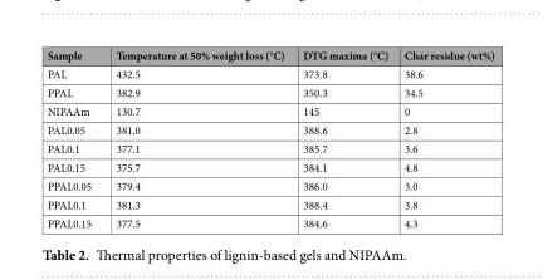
<table><thead><tr><td>Sample</td><td>Temperature at 50% weight loss (°C)</td><td>DTG maxima (°C)</td><td>Char residue (wt%)</td></tr></thead><tbody><tr><td>PAL</td><td>432.5</td><td>373.8</td><td>38.6</td></tr><tr><td>PPAL</td><td>382.9</td><td>350.3</td><td>34.5</td></tr><tr><td>NIPAAm</td><td>130.7</td><td>145</td><td>0</td></tr><tr><td>PAL0.05</td><td>381.0</td><td>388.6</td><td>2.8</td></tr><tr><td>PAL0.1</td><td>377.1</td><td>385.7</td><td>3.6</td></tr><tr><td>PAL0.15</td><td>375.7</td><td>384.1</td><td>4.8</td></tr><tr><td>PPAL0.05</td><td>379.4</td><td>386.0</td><td>3.0</td></tr><tr><td>PPAL0.1</td><td>381.3</td><td>388.4</td><td>3.8</td></tr><tr><td>PPAL0.15</td><td>377.5</td><td>384.6</td><td>4.3</td></tr></tbody></table>